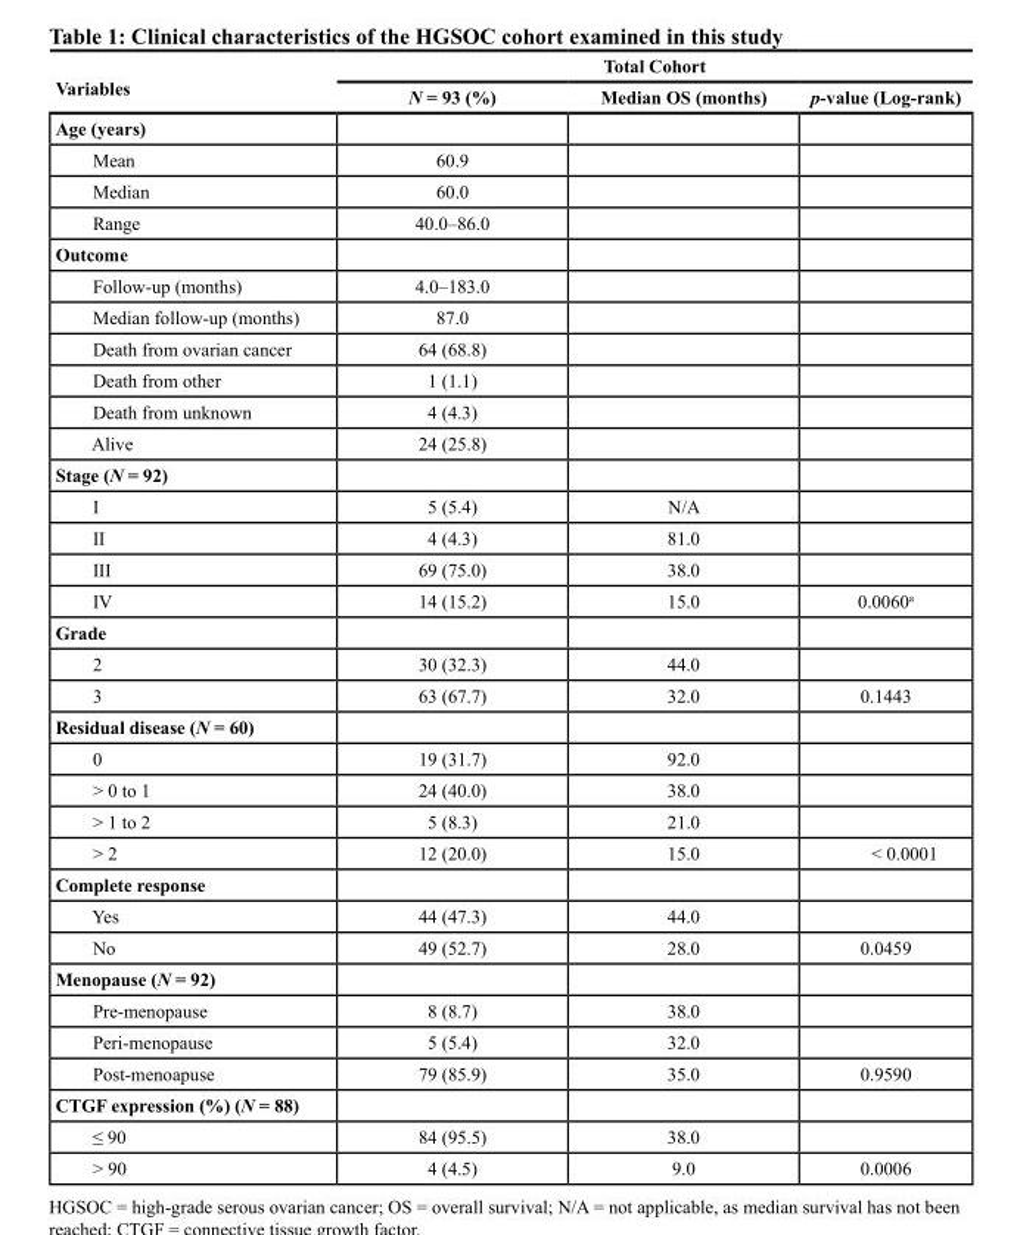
<table><thead><tr><td rowspan="2">Variables</td><td colspan="3">Total Cohort</td></tr><tr><td>N = 93 (%)</td><td>Median OS (months)</td><td>p-value (Log-rank)</td></tr></thead><tbody><tr><td colspan="4">Age (years)</td></tr><tr><td>Mean</td><td>60.9</td><td></td><td></td></tr><tr><td>Median</td><td>60.0</td><td></td><td></td></tr><tr><td>Range</td><td>40.0–86.0</td><td></td><td></td></tr><tr><td colspan="4">Outcome</td></tr><tr><td>Follow-up (months)</td><td>4.0–183.0</td><td></td><td></td></tr><tr><td>Median follow-up (months)</td><td>87.0</td><td></td><td></td></tr><tr><td>Death from ovarian cancer</td><td>64 (68.8)</td><td></td><td></td></tr><tr><td>Death from other</td><td>1 (1.1)</td><td></td><td></td></tr><tr><td>Death from unknown</td><td>4 (4.3)</td><td></td><td></td></tr><tr><td>Alive</td><td>24 (25.8)</td><td></td><td></td></tr><tr><td colspan="4">Stage (N = 92)</td></tr><tr><td>I</td><td>5 (5.4)</td><td>N/A</td><td></td></tr><tr><td>II</td><td>4 (4.3)</td><td>81.0</td><td></td></tr><tr><td>III</td><td>69 (75.0)</td><td>38.0</td><td></td></tr><tr><td>IV</td><td>14 (15.2)</td><td>15.0</td><td>0.0060<sup>a</sup></td></tr><tr><td colspan="4">Grade</td></tr><tr><td>2</td><td>30 (32.3)</td><td>44.0</td><td></td></tr><tr><td>3</td><td>63 (67.7)</td><td>32.0</td><td>0.1443</td></tr><tr><td colspan="4">Residual disease (N = 60)</td></tr><tr><td>0</td><td>19 (31.7)</td><td>92.0</td><td></td></tr><tr><td>&gt; 0 to 1</td><td>24 (40.0)</td><td>38.0</td><td></td></tr><tr><td>&gt; 1 to 2</td><td>5 (8.3)</td><td>21.0</td><td></td></tr><tr><td>&gt; 2</td><td>12 (20.0)</td><td>15.0</td><td>&lt; 0.0001</td></tr><tr><td colspan="4">Complete response</td></tr><tr><td>Yes</td><td>44 (47.3)</td><td>44.0</td><td></td></tr><tr><td>No</td><td>49 (52.7)</td><td>28.0</td><td>0.0459</td></tr><tr><td colspan="4">Menopause (N = 92)</td></tr><tr><td>Pre-menopause</td><td>8 (8.7)</td><td>38.0</td><td></td></tr><tr><td>Peri-menopause</td><td>5 (5.4)</td><td>32.0</td><td></td></tr><tr><td>Post-menoapuse</td><td>79 (85.9)</td><td>35.0</td><td>0.9590</td></tr><tr><td colspan="4">CTGF expression (%) (N = 88)</td></tr><tr><td>≤ 90</td><td>84 (95.5)</td><td>38.0</td><td></td></tr><tr><td>&gt; 90</td><td>4 (4.5)</td><td>9.0</td><td>0.0006</td></tr></tbody></table>